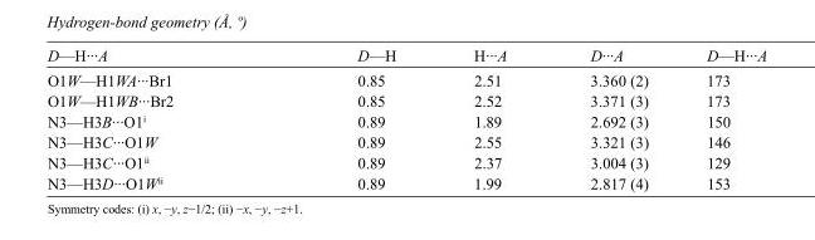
<table><tbody><tr><td>D—H···A</td><td>D—H</td><td>H···A</td><td>D···A</td><td>D—H···A</td></tr><tr><td>O1W—H1WA···Br1</td><td>0.85</td><td>2.51</td><td>3.360 (2)</td><td>173</td></tr><tr><td>O1W—H1WB···Br2</td><td>0.85</td><td>2.52</td><td>3.371 (3)</td><td>173</td></tr><tr><td>N3—H3B···O1<sup>i</sup></td><td>0.89</td><td>1.89</td><td>2.692 (3)</td><td>150</td></tr><tr><td>N3—H3C···O1W</td><td>0.89</td><td>2.55</td><td>3.321 (3)</td><td>146</td></tr><tr><td>N3—H3C···O1<sup>ii</sup></td><td>0.89</td><td>2.37</td><td>3.004 (3)</td><td>129</td></tr><tr><td>N3—H3D···O1W<sup>ii</sup></td><td>0.89</td><td>1.99</td><td>2.817 (4)</td><td>153</td></tr></tbody></table>